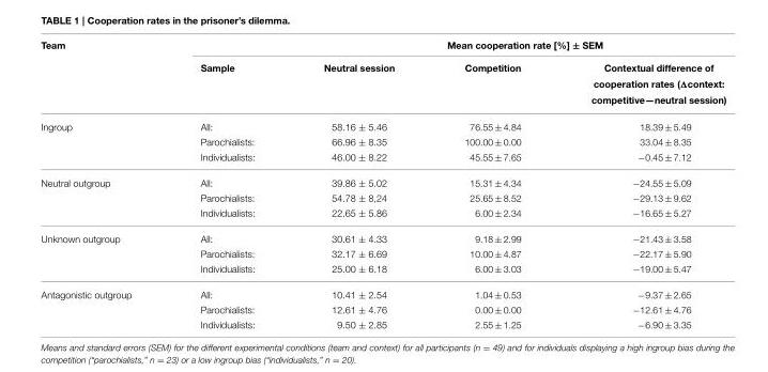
<table><thead><tr><td rowspan="2">Team</td><td rowspan="2">Sample</td><td colspan="3">Mean cooperation rate [%] ± SEM</td></tr><tr><td>Neutral session</td><td>Competition</td><td>Contextual difference of cooperation rates (Δcontext: competitive—neutral session)</td></tr></thead><tbody><tr><td rowspan="3">Ingroup</td><td>All:</td><td>58.16 ± 5.46</td><td>76.55 ± 4.84</td><td>18.39 ± 5.49</td></tr><tr><td>Parochialists:</td><td>66.96 ± 8.35</td><td>100.00 ± 0.00</td><td>33.04 ± 8.35</td></tr><tr><td>Individualists:</td><td>46.00 ± 8.22</td><td>45.55 ± 7.65</td><td>−0.45 ± 7.12</td></tr><tr><td rowspan="3">Neutral outgroup</td><td>All:</td><td>39.86 ± 5.02</td><td>15.31 ± 4.34</td><td>−24.55 ± 5.09</td></tr><tr><td>Parochialists:</td><td>54.78 ± 8,24</td><td>25.65 ± 8.52</td><td>−29.13 ± 9.62</td></tr><tr><td>Individualists:</td><td>22.65 ± 5.86</td><td>6.00 ± 2.34</td><td>−16.65 ± 5.27</td></tr><tr><td rowspan="3">Unknown outgroup</td><td>All:</td><td>30.61 ± 4.33</td><td>9.18 ± 2.99</td><td>−21.43 ± 3.58</td></tr><tr><td>Parochialists:</td><td>32.17 ± 6.69</td><td>10.00 ± 4.87</td><td>−22.17 ± 5.90</td></tr><tr><td>Individualists:</td><td>25.00 ± 6.18</td><td>6.00 ± 3.03</td><td>−19.00 ± 5.47</td></tr><tr><td rowspan="3">Antagonistic outgroup</td><td>All:</td><td>10.41 ± 2.54</td><td>1.04 ± 0.53</td><td>−9.37 ± 2.65</td></tr><tr><td>Parochialists:</td><td>12.61 ± 4.76</td><td>0.00 ± 0.00</td><td>−12.61 ± 4.76</td></tr><tr><td>Individualists:</td><td>9.50 ± 2.85</td><td>2.55 ± 1.25</td><td>−6.90 ± 3.35</td></tr></tbody></table>